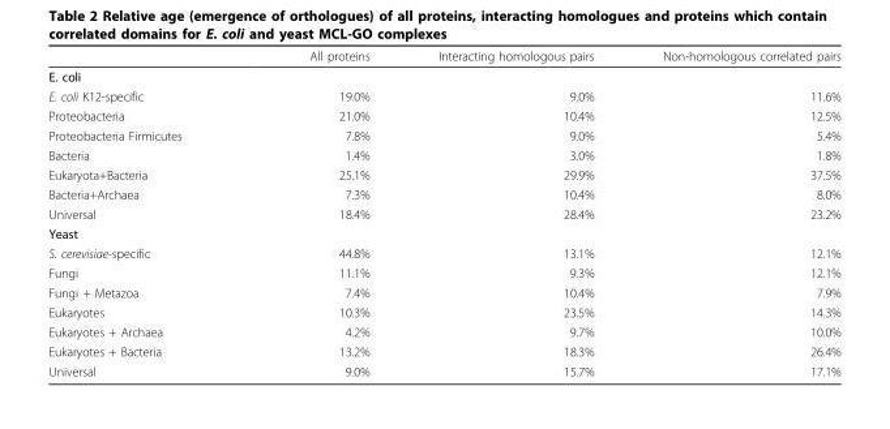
<table><thead><tr><td></td><td>All proteins</td><td>Interacting homologous pairs</td><td>Non-homologous correlated pairs</td></tr></thead><tbody><tr><td colspan="4">E. coli</td></tr><tr><td>E. coli K12-specific</td><td>19.0%</td><td>9.0%</td><td>11.6%</td></tr><tr><td>Proteobacteria</td><td>21.0%</td><td>10.4%</td><td>12.5%</td></tr><tr><td>Proteobacteria Firmicutes</td><td>7.8%</td><td>9.0%</td><td>5.4%</td></tr><tr><td>Bacteria</td><td>1.4%</td><td>3.0%</td><td>1.8%</td></tr><tr><td>Eukaryota+Bacteria</td><td>25.1%</td><td>29.9%</td><td>37.5%</td></tr><tr><td>Bacteria+Archaea</td><td>7.3%</td><td>10.4%</td><td>8.0%</td></tr><tr><td>Universal</td><td>18.4%</td><td>28.4%</td><td>23.2%</td></tr><tr><td colspan="4">Yeast</td></tr><tr><td>S. cerevisiae-specific</td><td>44.8%</td><td>13.1%</td><td>12.1%</td></tr><tr><td>Fungi</td><td>11.1%</td><td>9.3%</td><td>12.1%</td></tr><tr><td>Fungi + Metazoa</td><td>7.4%</td><td>10.4%</td><td>7.9%</td></tr><tr><td>Eukaryotes</td><td>10.3%</td><td>23.5%</td><td>14.3%</td></tr><tr><td>Eukaryotes + Archaea</td><td>4.2%</td><td>9.7%</td><td>10.0%</td></tr><tr><td>Eukaryotes + Bacteria</td><td>13.2%</td><td>18.3%</td><td>26.4%</td></tr><tr><td>Universal</td><td>9.0%</td><td>15.7%</td><td>17.1%</td></tr></tbody></table>